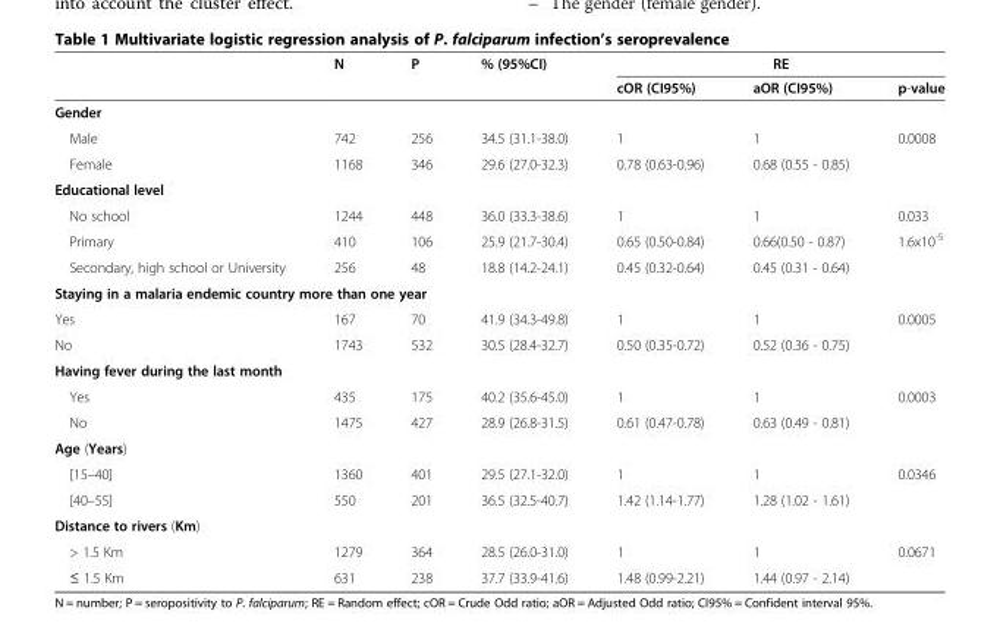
<table><thead><tr><td rowspan="2"></td><td rowspan="2">N</td><td rowspan="2">P</td><td rowspan="2">% (95%CI)</td><td colspan="3">RE</td></tr><tr><td>cOR (CI95%)</td><td>aOR (CI95%)</td><td>p-value</td></tr></thead><tbody><tr><td colspan="7">Gender</td></tr><tr><td>Male</td><td>742</td><td>256</td><td>34.5 (31.1-38.0)</td><td>1</td><td>1</td><td>0.0008</td></tr><tr><td>Female</td><td>1168</td><td>346</td><td>29.6 (27.0-32.3)</td><td>0.78 (0.63-0.96)</td><td>0.68 (0.55 - 0.85)</td><td></td></tr><tr><td colspan="7">Educational level</td></tr><tr><td>No school</td><td>1244</td><td>448</td><td>36.0 (33.3-38.6)</td><td>1</td><td>1</td><td>0.033</td></tr><tr><td>Primary</td><td>410</td><td>106</td><td>25.9 (21.7-30.4)</td><td>0.65 (0.50-0.84)</td><td>0.66(0.50 - 0.87)</td><td>1.6x10<sup>-5</sup></td></tr><tr><td>Secondary, high school or University</td><td>256</td><td>48</td><td>18.8 (14.2-24.1)</td><td>0.45 (0.32-0.64)</td><td>0.45 (0.31 - 0.64)</td><td></td></tr><tr><td colspan="7">Staying in a malaria endemic country more than one year</td></tr><tr><td>Yes</td><td>167</td><td>70</td><td>41.9 (34.3-49.8)</td><td>1</td><td>1</td><td>0.0005</td></tr><tr><td>No</td><td>1743</td><td>532</td><td>30.5 (28.4-32.7)</td><td>0.50 (0.35-0.72)</td><td>0.52 (0.36 - 0.75)</td><td></td></tr><tr><td colspan="7">Having fever during the last month</td></tr><tr><td>Yes</td><td>435</td><td>175</td><td>40.2 (35.6-45.0)</td><td>1</td><td>1</td><td>0.0003</td></tr><tr><td>No</td><td>1475</td><td>427</td><td>28.9 (26.8-31.5)</td><td>0.61 (0.47-0.78)</td><td>0.63 (0.49 - 0.81)</td><td></td></tr><tr><td colspan="7">Age (Years)</td></tr><tr><td>[15–40]</td><td>1360</td><td>401</td><td>29.5 (27.1-32.0)</td><td>1</td><td>1</td><td>0.0346</td></tr><tr><td>[40–55]</td><td>550</td><td>201</td><td>36.5 (32.5-40.7)</td><td>1.42 (1.14-1.77)</td><td>1.28 (1.02 - 1.61)</td><td></td></tr><tr><td colspan="7">Distance to rivers (Km)</td></tr><tr><td>&gt; 1.5 Km</td><td>1279</td><td>364</td><td>28.5 (26.0-31.0)</td><td>1</td><td>1</td><td>0.0671</td></tr><tr><td>≤ 1.5 Km</td><td>631</td><td>238</td><td>37.7 (33.9-41.6)</td><td>1.48 (0.99-2.21)</td><td>1.44 (0.97 - 2.14)</td><td></td></tr></tbody></table>